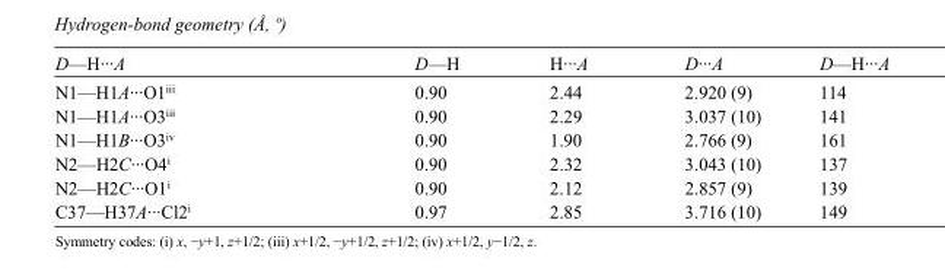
<table><tbody><tr><td>D—H···A</td><td>D—H</td><td>H···A</td><td>D···A</td><td>D—H···A</td></tr><tr><td>N1—H1A···O1<sup>iii</sup></td><td>0.90</td><td>2.44</td><td>2.920 (9)</td><td>114</td></tr><tr><td>N1—H1A···O3<sup>iii</sup></td><td>0.90</td><td>2.29</td><td>3.037 (10)</td><td>141</td></tr><tr><td>N1—H1B···O3<sup>iv</sup></td><td>0.90</td><td>1.90</td><td>2.766 (9)</td><td>161</td></tr><tr><td>N2—H2C···O4<sup>i</sup></td><td>0.90</td><td>2.32</td><td>3.043 (10)</td><td>137</td></tr><tr><td>N2—H2C···O1<sup>i</sup></td><td>0.90</td><td>2.12</td><td>2.857 (9)</td><td>139</td></tr><tr><td>C37—H37A···Cl2<sup>i</sup></td><td>0.97</td><td>2.85</td><td>3.716 (10)</td><td>149</td></tr></tbody></table>